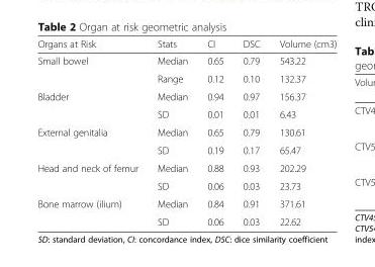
<table><thead><tr><td>Organs at Risk</td><td>Stats</td><td>CI</td><td>DSC</td><td>Volume (cm3)</td></tr></thead><tbody><tr><td rowspan="2">Small bowel</td><td>Median</td><td>0.65</td><td>0.79</td><td>543.22</td></tr><tr><td>Range</td><td>0.12</td><td>0.10</td><td>132.37</td></tr><tr><td rowspan="2">Bladder</td><td>Median</td><td>0.94</td><td>0.97</td><td>156.37</td></tr><tr><td>SD</td><td>0.01</td><td>0.01</td><td>6.43</td></tr><tr><td rowspan="2">External genitalia</td><td>Median</td><td>0.65</td><td>0.79</td><td>130.61</td></tr><tr><td>SD</td><td>0.19</td><td>0.17</td><td>65.47</td></tr><tr><td rowspan="2">Head and neck of femur</td><td>Median</td><td>0.88</td><td>0.93</td><td>202.29</td></tr><tr><td>SD</td><td>0.06</td><td>0.03</td><td>23.73</td></tr><tr><td rowspan="2">Bone marrow (ilium)</td><td>Median</td><td>0.84</td><td>0.91</td><td>371.61</td></tr><tr><td>SD</td><td>0.06</td><td>0.03</td><td>22.62</td></tr></tbody></table>